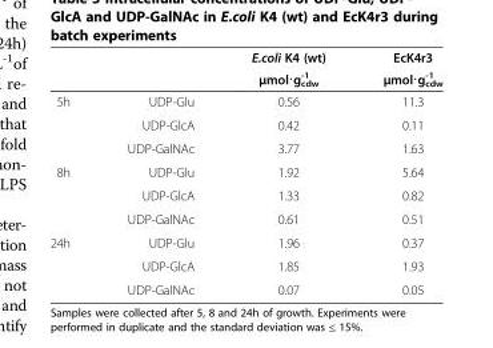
<table><thead><tr><td rowspan="2"></td><td rowspan="2"></td><td rowspan="2">E.coli K4 (wt) μmol∙g<sub>cdw</sub> <sup>-1</sup></td><td rowspan="2">EcK4r3 μmol∙g<sub>cdw</sub> <sup>-1</sup></td></tr><tr></tr></thead><tbody><tr><td rowspan="3">5h</td><td>UDP-Glu</td><td>0.56</td><td>11.3</td></tr><tr><td>UDP-GlcA</td><td>0.42</td><td>0.11</td></tr><tr><td>UDP-GalNAc</td><td>3.77</td><td>1.63</td></tr><tr><td rowspan="3">8h</td><td>UDP-Glu</td><td>1.92</td><td>5.64</td></tr><tr><td>UDP-GlcA</td><td>1.33</td><td>0.82</td></tr><tr><td>UDP-GalNAc</td><td>0.61</td><td>0.51</td></tr><tr><td rowspan="3">24h</td><td>UDP-Glu</td><td>1.96</td><td>0.37</td></tr><tr><td>UDP-GlcA</td><td>1.85</td><td>1.93</td></tr><tr><td>UDP-GalNAc</td><td>0.07</td><td>0.05</td></tr></tbody></table>